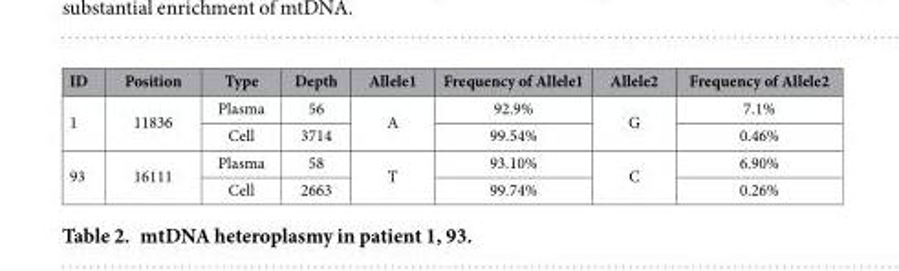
<table><thead><tr><td>ID</td><td>Position</td><td>Type</td><td>Depth</td><td>Allele1</td><td>Frequency of Allele1</td><td>Allele2</td><td>Frequency of Allele2</td></tr></thead><tbody><tr><td rowspan="2">1</td><td rowspan="2">11836</td><td>Plasma</td><td>56</td><td rowspan="2">A</td><td>92.9%</td><td rowspan="2">G</td><td>7.1%</td></tr><tr><td>Cell</td><td>3714</td><td>99.54%</td><td>0.46%</td></tr><tr><td rowspan="2">93</td><td rowspan="2">16111</td><td>Plasma</td><td>58</td><td rowspan="2">T</td><td>93.10%</td><td rowspan="2">C</td><td>6.90%</td></tr><tr><td>Cell</td><td>2663</td><td>99.74%</td><td>0.26%</td></tr></tbody></table>